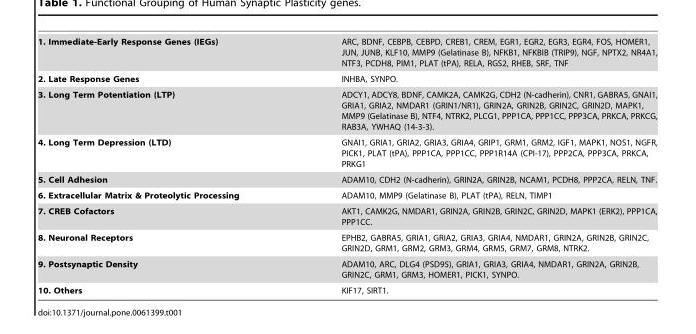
<table><tbody><tr><td>1. Immediate-Early Response Genes (IEGs)</td><td>ARC, BDNF, CEBPB, CEBPD, CREB1, CREM, EGR1, EGR2, EGR3, EGR4, FOS, HOMER1, JUN, JUNB, KLF10, MMP9 (Gelatinase B), NFKB1, NFKBIB (TRIP9), NGF, NPTX2, NR4A1, NTF3, PCDH8, PIM1, PLAT (tPA), RELA, RGS2, RHEB, SRF, TNF</td></tr><tr><td>2. Late Response Genes</td><td>INHBA, SYNPO.</td></tr><tr><td>3. Long Term Potentiation (LTP)</td><td>ADCY1, ADCY8, BDNF, CAMK2A, CAMK2G, CDH2 (N-cadherin), CNR1, GABRA5, GNAI1, GRIA1, GRIA2, NMDAR1 (GRIN1/NR1), GRIN2A, GRIN2B, GRIN2C, GRIN2D, MAPK1, MMP9 (Gelatinase B), NTF4, NTRK2, PLCG1, PPP1CA, PPP1CC, PPP3CA, PRKCA, PRKCG, RAB3A, YWHAQ (14-3-3).</td></tr><tr><td>4. Long Term Depression (LTD)</td><td>GNAI1, GRIA1, GRIA2, GRIA3, GRIA4, GRIP1, GRM1, GRM2, IGF1, MAPK1, NOS1, NGFR, PICK1, PLAT (tPA), PPP1CA, PPP1CC, PPP1R14A (CPI-17), PPP2CA, PPP3CA, PRKCA, PRKG1</td></tr><tr><td>5. Cell Adhesion</td><td>ADAM10, CDH2 (N-cadherin), GRIN2A, GRIN2B, NCAM1, PCDH8, PPP2CA, RELN, TNF.</td></tr><tr><td>6. Extracellular Matrix &amp; Proteolytic Processing</td><td>ADAM10, MMP9 (Gelatinase B), PLAT (tPA), RELN, TIMP1</td></tr><tr><td>7. CREB Cofactors</td><td>AKT1, CAMK2G, NMDAR1, GRIN2A, GRIN2B, GRIN2C, GRIN2D, MAPK1 (ERK2), PPP1CA, PPP1CC.</td></tr><tr><td>8. Neuronal Receptors</td><td>EPHB2, GABRA5, GRIA1, GRIA2, GRIA3, GRIA4, NMDAR1, GRIN2A, GRIN2B, GRIN2C, GRIN2D, GRM1, GRM2, GRM3, GRM4, GRM5, GRM7, GRM8, NTRK2.</td></tr><tr><td>9. Postsynaptic Density</td><td>ADAM10, ARC, DLG4 (PSD95), GRIA1, GRIA3, GRIA4, NMDAR1, GRIN2A, GRIN2B, GRIN2C, GRM1, GRM3, HOMER1, PICK1, SYNPO.</td></tr><tr><td>10. Others</td><td>KIF17, SIRT1.</td></tr></tbody></table>